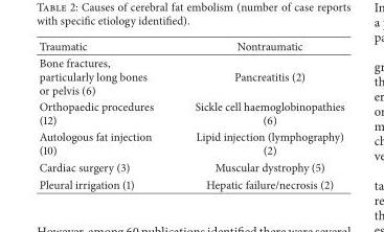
<table><thead><tr><td>Traumatic</td><td>Nontraumatic</td></tr></thead><tbody><tr><td>Bone fractures, particularly long bones or pelvis (6)</td><td>Pancreatitis (2)</td></tr><tr><td>Orthopaedic procedures (12)</td><td>Sickle cell haemoglobinopathies (6)</td></tr><tr><td>Autologous fat injection (10)</td><td>Lipid injection (lymphography) (2)</td></tr><tr><td>Cardiac surgery (3)</td><td>Muscular dystrophy (5)</td></tr><tr><td>Pleural irrigation (1)</td><td>Hepatic failure/necrosis (2)</td></tr></tbody></table>